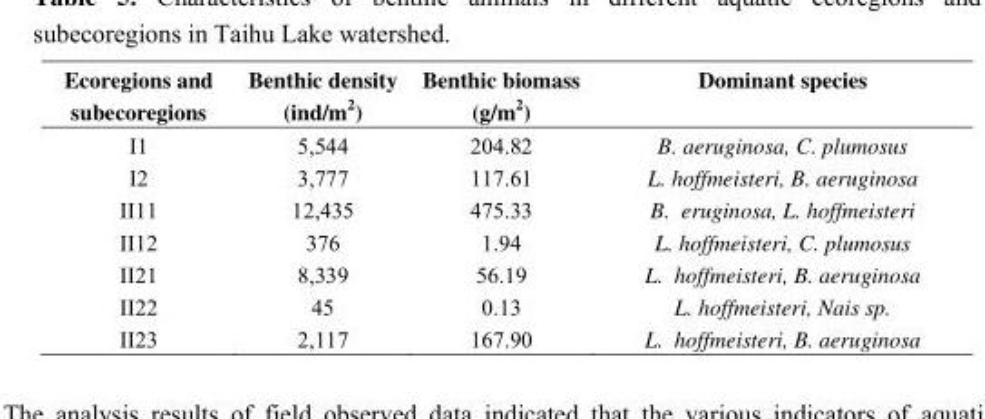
<table><thead><tr><td>Ecoregions and subecoregions</td><td>Benthic density (ind/m<sup>2</sup>)</td><td>Benthic biomass (g/m<sup>2</sup>)</td><td>Dominant species</td></tr></thead><tbody><tr><td>I1</td><td>5,544</td><td>204.82</td><td>B. aeruginosa, C. plumosus</td></tr><tr><td>I2</td><td>3,777</td><td>117.61</td><td>L. hoffmeisteri, B. aeruginosa</td></tr><tr><td>II11</td><td>12,435</td><td>475.33</td><td>B. eruginosa, L. hoffmeisteri</td></tr><tr><td>II12</td><td>376</td><td>1.94</td><td>L. hoffmeisteri, C. plumosus</td></tr><tr><td>II21</td><td>8,339</td><td>56.19</td><td>L. hoffmeisteri, B. aeruginosa</td></tr><tr><td>II22</td><td>45</td><td>0.13</td><td>L. hoffmeisteri, Nais sp.</td></tr><tr><td>II23</td><td>2,117</td><td>167.90</td><td>L. hoffmeisteri, B. aeruginosa</td></tr></tbody></table>